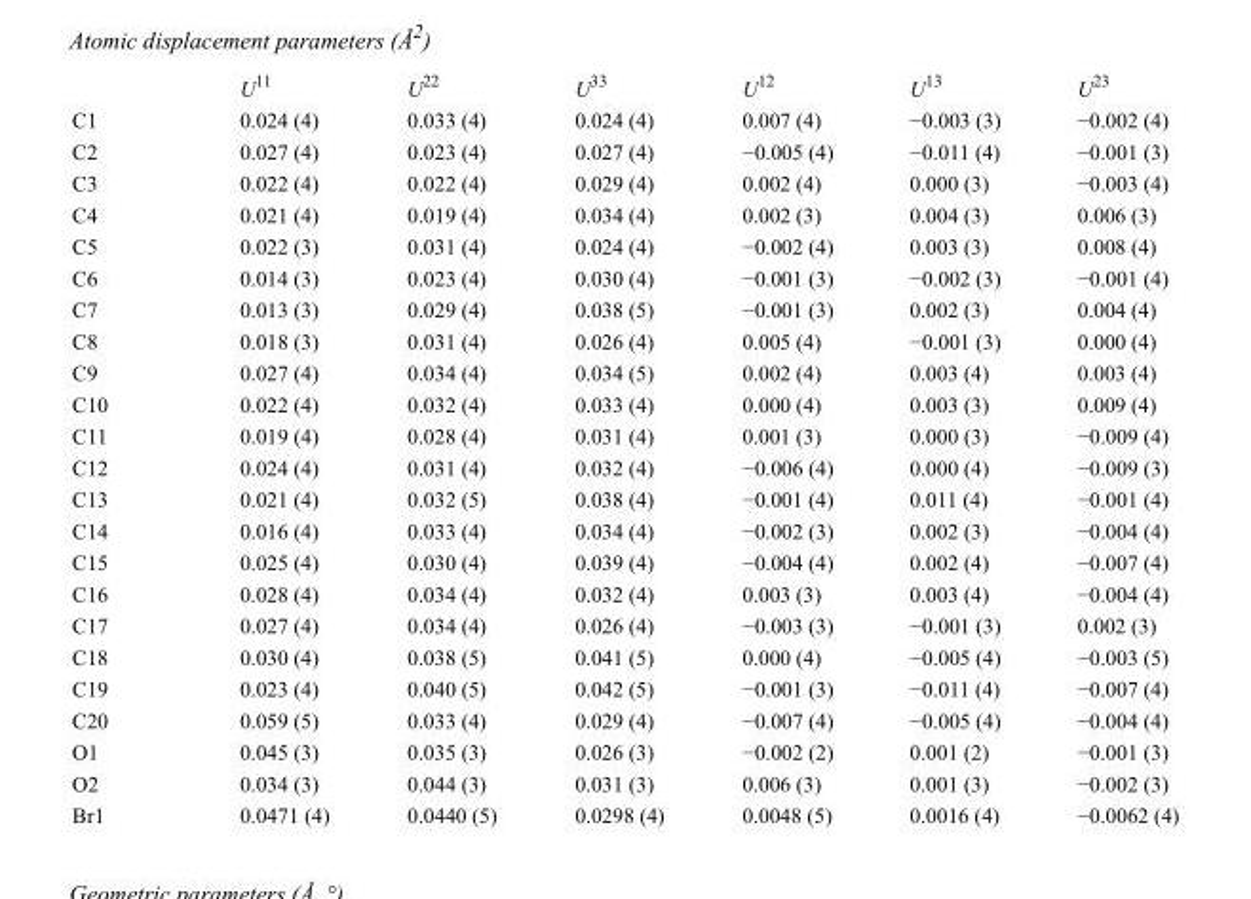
<table><thead><tr><td></td><td>U<sup>11</sup></td><td>U<sup>22</sup></td><td>U<sup>33</sup></td><td>U<sup>12</sup></td><td>U<sup>13</sup></td><td>U<sup>23</sup></td></tr></thead><tbody><tr><td>C1</td><td>0.024 (4)</td><td>0.033 (4)</td><td>0.024 (4)</td><td>0.007 (4)</td><td>−0.003 (3)</td><td>−0.002 (4)</td></tr><tr><td>C2</td><td>0.027 (4)</td><td>0.023 (4)</td><td>0.027 (4)</td><td>−0.005 (4)</td><td>−0.011 (4)</td><td>−0.001 (3)</td></tr><tr><td>C3</td><td>0.022 (4)</td><td>0.022 (4)</td><td>0.029 (4)</td><td>0.002 (4)</td><td>0.000 (3)</td><td>−0.003 (4)</td></tr><tr><td>C4</td><td>0.021 (4)</td><td>0.019 (4)</td><td>0.034 (4)</td><td>0.002 (3)</td><td>0.004 (3)</td><td>0.006 (3)</td></tr><tr><td>C5</td><td>0.022 (3)</td><td>0.031 (4)</td><td>0.024 (4)</td><td>−0.002 (4)</td><td>0.003 (3)</td><td>0.008 (4)</td></tr><tr><td>C6</td><td>0.014 (3)</td><td>0.023 (4)</td><td>0.030 (4)</td><td>−0.001 (3)</td><td>−0.002 (3)</td><td>−0.001 (4)</td></tr><tr><td>C7</td><td>0.013 (3)</td><td>0.029 (4)</td><td>0.038 (5)</td><td>−0.001 (3)</td><td>0.002 (3)</td><td>0.004 (4)</td></tr><tr><td>C8</td><td>0.018 (3)</td><td>0.031 (4)</td><td>0.026 (4)</td><td>0.005 (4)</td><td>−0.001 (3)</td><td>0.000 (4)</td></tr><tr><td>C9</td><td>0.027 (4)</td><td>0.034 (4)</td><td>0.034 (5)</td><td>0.002 (4)</td><td>0.003 (4)</td><td>0.003 (4)</td></tr><tr><td>C10</td><td>0.022 (4)</td><td>0.032 (4)</td><td>0.033 (4)</td><td>0.000 (4)</td><td>0.003 (3)</td><td>0.009 (4)</td></tr><tr><td>C11</td><td>0.019 (4)</td><td>0.028 (4)</td><td>0.031 (4)</td><td>0.001 (3)</td><td>0.000 (3)</td><td>−0.009 (4)</td></tr><tr><td>C12</td><td>0.024 (4)</td><td>0.031 (4)</td><td>0.032 (4)</td><td>−0.006 (4)</td><td>0.000 (4)</td><td>−0.009 (3)</td></tr><tr><td>C13</td><td>0.021 (4)</td><td>0.032 (5)</td><td>0.038 (4)</td><td>−0.001 (4)</td><td>0.011 (4)</td><td>−0.001 (4)</td></tr><tr><td>C14</td><td>0.016 (4)</td><td>0.033 (4)</td><td>0.034 (4)</td><td>−0.002 (3)</td><td>0.002 (3)</td><td>−0.004 (4)</td></tr><tr><td>C15</td><td>0.025 (4)</td><td>0.030 (4)</td><td>0.039 (4)</td><td>−0.004 (4)</td><td>0.002 (4)</td><td>−0.007 (4)</td></tr><tr><td>C16</td><td>0.028 (4)</td><td>0.034 (4)</td><td>0.032 (4)</td><td>0.003 (3)</td><td>0.003 (4)</td><td>−0.004 (4)</td></tr><tr><td>C17</td><td>0.027 (4)</td><td>0.034 (4)</td><td>0.026 (4)</td><td>−0.003 (3)</td><td>−0.001 (3)</td><td>0.002 (3)</td></tr><tr><td>C18</td><td>0.030 (4)</td><td>0.038 (5)</td><td>0.041 (5)</td><td>0.000 (4)</td><td>−0.005 (4)</td><td>−0.003 (5)</td></tr><tr><td>C19</td><td>0.023 (4)</td><td>0.040 (5)</td><td>0.042 (5)</td><td>−0.001 (3)</td><td>−0.011 (4)</td><td>−0.007 (4)</td></tr><tr><td>C20</td><td>0.059 (5)</td><td>0.033 (4)</td><td>0.029 (4)</td><td>−0.007 (4)</td><td>−0.005 (4)</td><td>−0.004 (4)</td></tr><tr><td>O1</td><td>0.045 (3)</td><td>0.035 (3)</td><td>0.026 (3)</td><td>−0.002 (2)</td><td>0.001 (2)</td><td>−0.001 (3)</td></tr><tr><td>O2</td><td>0.034 (3)</td><td>0.044 (3)</td><td>0.031 (3)</td><td>0.006 (3)</td><td>0.001 (3)</td><td>−0.002 (3)</td></tr><tr><td>Br1</td><td>0.0471 (4)</td><td>0.0440 (5)</td><td>0.0298 (4)</td><td>0.0048 (5)</td><td>0.0016 (4)</td><td>−0.0062 (4)</td></tr></tbody></table>